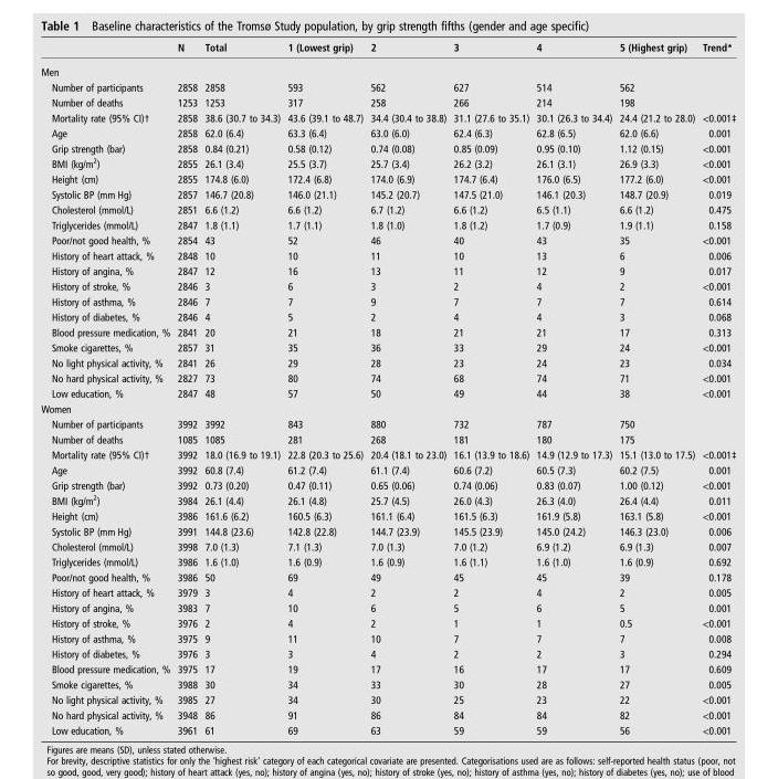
<table><thead><tr><td></td><td>N</td><td>Total</td><td>1 (Lowest grip)</td><td>2</td><td>3</td><td>4</td><td>5 (Highest grip)</td><td>Trend*</td></tr></thead><tbody><tr><td colspan="9">Men</td></tr><tr><td>Number of participants</td><td>2858</td><td>2858</td><td>593</td><td>562</td><td>627</td><td>514</td><td>562</td><td></td></tr><tr><td>Number of deaths</td><td>1253</td><td>1253</td><td>317</td><td>258</td><td>266</td><td>214</td><td>198</td><td></td></tr><tr><td>Mortality rate (95% CI)†</td><td>2858</td><td>38.6 (30.7 to 34.3)</td><td>43.6 (39.1 to 48.7)</td><td>34.4 (30.4 to 38.8)</td><td>31.1 (27.6 to 35.1)</td><td>30.1 (26.3 to 34.4)</td><td>24.4 (21.2 to 28.0)</td><td>&lt;0.001‡</td></tr><tr><td>Age</td><td>2858</td><td>62.0 (6.4)</td><td>63.3 (6.4)</td><td>63.0 (6.0)</td><td>62.4 (6.3)</td><td>62.8 (6.5)</td><td>62.0 (6.6)</td><td>0.001</td></tr><tr><td>Grip strength (bar)</td><td>2858</td><td>0.84 (0.21)</td><td>0.58 (0.12)</td><td>0.74 (0.08)</td><td>0.85 (0.09)</td><td>0.95 (0.10)</td><td>1.12 (0.15)</td><td>&lt;0.001</td></tr><tr><td>BMI (kg/m<sup>2</sup>)</td><td>2855</td><td>26.1 (3.4)</td><td>25.5 (3.7)</td><td>25.7 (3.4)</td><td>26.2 (3.2)</td><td>26.1 (3.1)</td><td>26.9 (3.3)</td><td>&lt;0.001</td></tr><tr><td>Height (cm)</td><td>2855</td><td>174.8 (6.0)</td><td>172.4 (6.8)</td><td>174.0 (6.9)</td><td>174.7 (6.4)</td><td>176.0 (6.5)</td><td>177.2 (6.0)</td><td>&lt;0.001</td></tr><tr><td>Systolic BP (mm Hg)</td><td>2857</td><td>146.7 (20.8)</td><td>146.0 (21.1)</td><td>145.2 (20.7)</td><td>147.5 (21.0)</td><td>146.1 (20.3)</td><td>148.7 (20.9)</td><td>0.019</td></tr><tr><td>Cholesterol (mmol/L)</td><td>2851</td><td>6.6 (1.2)</td><td>6.6 (1.2)</td><td>6.7 (1.2)</td><td>6.6 (1.2)</td><td>6.5 (1.1)</td><td>6.6 (1.2)</td><td>0.475</td></tr><tr><td>Triglycerides (mmol/L)</td><td>2847</td><td>1.8 (1.1)</td><td>1.7 (1.1)</td><td>1.8 (1.0)</td><td>1.8 (1.2)</td><td>1.7 (0.9)</td><td>1.9 (1.1)</td><td>0.158</td></tr><tr><td>Poor/not good health, %</td><td>2854</td><td>43</td><td>52</td><td>46</td><td>40</td><td>43</td><td>35</td><td>&lt;0.001</td></tr><tr><td>History of heart attack, %</td><td>2848</td><td>10</td><td>10</td><td>11</td><td>10</td><td>13</td><td>6</td><td>0.006</td></tr><tr><td>History of angina, %</td><td>2847</td><td>12</td><td>16</td><td>13</td><td>11</td><td>12</td><td>9</td><td>0.017</td></tr><tr><td>History of stroke, %</td><td>2846</td><td>3</td><td>6</td><td>3</td><td>2</td><td>4</td><td>2</td><td>&lt;0.001</td></tr><tr><td>History of asthma, %</td><td>2846</td><td>7</td><td>7</td><td>9</td><td>7</td><td>7</td><td>7</td><td>0.614</td></tr><tr><td>History of diabetes, %</td><td>2846</td><td>4</td><td>5</td><td>2</td><td>4</td><td>4</td><td>3</td><td>0.068</td></tr><tr><td>Blood pressure medication, %</td><td>2841</td><td>20</td><td>21</td><td>18</td><td>21</td><td>21</td><td>17</td><td>0.313</td></tr><tr><td>Smoke cigarettes, %</td><td>2857</td><td>31</td><td>35</td><td>36</td><td>33</td><td>29</td><td>24</td><td>&lt;0.001</td></tr><tr><td>No light physical activity, %</td><td>2841</td><td>26</td><td>29</td><td>28</td><td>23</td><td>24</td><td>23</td><td>0.034</td></tr><tr><td>No hard physical activity, %</td><td>2827</td><td>73</td><td>80</td><td>74</td><td>68</td><td>74</td><td>71</td><td>&lt;0.001</td></tr><tr><td>Low education, %</td><td>2847</td><td>48</td><td>57</td><td>50</td><td>49</td><td>44</td><td>38</td><td>&lt;0.001</td></tr><tr><td colspan="9">Women</td></tr><tr><td>Number of participants</td><td>3992</td><td>3992</td><td>843</td><td>880</td><td>732</td><td>787</td><td>750</td><td></td></tr><tr><td>Number of deaths</td><td>1085</td><td>1085</td><td>281</td><td>268</td><td>181</td><td>180</td><td>175</td><td></td></tr><tr><td>Mortality rate (95% CI)†</td><td>3992</td><td>18.0 (16.9 to 19.1)</td><td>22.8 (20.3 to 25.6)</td><td>20.4 (18.1 to 23.0)</td><td>16.1 (13.9 to 18.6)</td><td>14.9 (12.9 to 17.3)</td><td>15.1 (13.0 to 17.5)</td><td>&lt;0.001‡</td></tr><tr><td>Age</td><td>3992</td><td>60.8 (7.4)</td><td>61.2 (7.4)</td><td>61.1 (7.4)</td><td>60.6 (7.2)</td><td>60.5 (7.3)</td><td>60.2 (7.5)</td><td>0.001</td></tr><tr><td>Grip strength (bar)</td><td>3992</td><td>0.73 (0.20)</td><td>0.47 (0.11)</td><td>0.65 (0.06)</td><td>0.74 (0.06)</td><td>0.83 (0.07)</td><td>1.00 (0.12)</td><td>&lt;0.001</td></tr><tr><td>BMI (kg/m<sup>2</sup>)</td><td>3984</td><td>26.1 (4.4)</td><td>26.1 (4.8)</td><td>25.7 (4.5)</td><td>26.0 (4.3)</td><td>26.3 (4.0)</td><td>26.4 (4.4)</td><td>0.011</td></tr><tr><td>Height (cm)</td><td>3986</td><td>161.6 (6.2)</td><td>160.5 (6.3)</td><td>161.1 (6.4)</td><td>161.5 (6.3)</td><td>161.9 (5.8)</td><td>163.1 (5.8)</td><td>&lt;0.001</td></tr><tr><td>Systolic BP (mm Hg)</td><td>3991</td><td>144.8 (23.6)</td><td>142.8 (22.8)</td><td>144.7 (23.9)</td><td>145.5 (23.9)</td><td>145.0 (24.2)</td><td>146.3 (23.0)</td><td>0.006</td></tr><tr><td>Cholesterol (mmol/L)</td><td>3998</td><td>7.0 (1.3)</td><td>7.1 (1.3)</td><td>7.0 (1.3)</td><td>7.0 (1.2)</td><td>6.9 (1.2)</td><td>6.9 (1.3)</td><td>0.007</td></tr><tr><td>Triglycerides (mmol/L)</td><td>3986</td><td>1.6 (1.0)</td><td>1.6 (0.9)</td><td>1.6 (0.9)</td><td>1.6 (1.1)</td><td>1.6 (1.0)</td><td>1.6 (0.9)</td><td>0.692</td></tr><tr><td>Poor/not good health, %</td><td>3986</td><td>50</td><td>69</td><td>49</td><td>45</td><td>45</td><td>39</td><td>0.178</td></tr><tr><td>History of heart attack, %</td><td>3979</td><td>3</td><td>4</td><td>2</td><td>2</td><td>4</td><td>2</td><td>0.005</td></tr><tr><td>History of angina, %</td><td>3983</td><td>7</td><td>10</td><td>6</td><td>5</td><td>6</td><td>5</td><td>0.001</td></tr><tr><td>History of stroke, %</td><td>3976</td><td>2</td><td>4</td><td>2</td><td>1</td><td>1</td><td>0.5</td><td>&lt;0.001</td></tr><tr><td>History of asthma, %</td><td>3975</td><td>9</td><td>11</td><td>10</td><td>7</td><td>7</td><td>7</td><td>0.008</td></tr><tr><td>History of diabetes, %</td><td>3976</td><td>3</td><td>3</td><td>4</td><td>2</td><td>2</td><td>3</td><td>0.294</td></tr><tr><td>Blood pressure medication, %</td><td>3975</td><td>17</td><td>19</td><td>17</td><td>16</td><td>17</td><td>17</td><td>0.609</td></tr><tr><td>Smoke cigarettes, %</td><td>3988</td><td>30</td><td>34</td><td>33</td><td>30</td><td>28</td><td>27</td><td>0.005</td></tr><tr><td>No light physical activity, %</td><td>3985</td><td>27</td><td>34</td><td>30</td><td>25</td><td>23</td><td>22</td><td>&lt;0.001</td></tr><tr><td>No hard physical activity, %</td><td>3948</td><td>86</td><td>91</td><td>86</td><td>84</td><td>84</td><td>82</td><td>&lt;0.001</td></tr><tr><td>Low education, %</td><td>3961</td><td>61</td><td>69</td><td>63</td><td>59</td><td>59</td><td>56</td><td>&lt;0.001</td></tr></tbody></table>